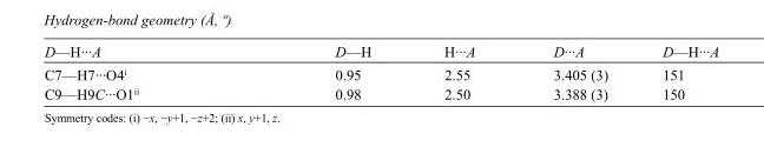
<table><tbody><tr><td>D—H···A</td><td>D—H</td><td>H···A</td><td>D···A</td><td>D—H···A</td></tr><tr><td>C7—H7···O4<sup>i</sup></td><td>0.95</td><td>2.55</td><td>3.405 (3)</td><td>151</td></tr><tr><td>C9—H9C···O1<sup>ii</sup></td><td>0.98</td><td>2.50</td><td>3.388 (3)</td><td>150</td></tr></tbody></table>